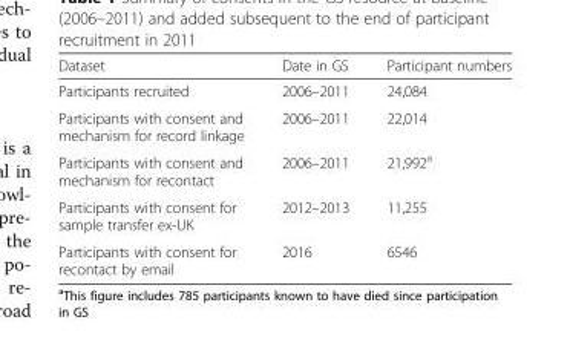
<table><thead><tr><td>Dataset</td><td>Date in GS</td><td>Participant numbers</td></tr></thead><tbody><tr><td>Participants recruited</td><td>2006–2011</td><td>24,084</td></tr><tr><td>Participants with consent and mechanism for record linkage</td><td>2006–2011</td><td>22,014</td></tr><tr><td>Participants with consent and mechanism for recontact</td><td>2006–2011</td><td>21,992<sup>a</sup></td></tr><tr><td>Participants with consent for sample transfer ex-UK</td><td>2012–2013</td><td>11,255</td></tr><tr><td>Participants with consent for recontact by email</td><td>2016</td><td>6546</td></tr></tbody></table>